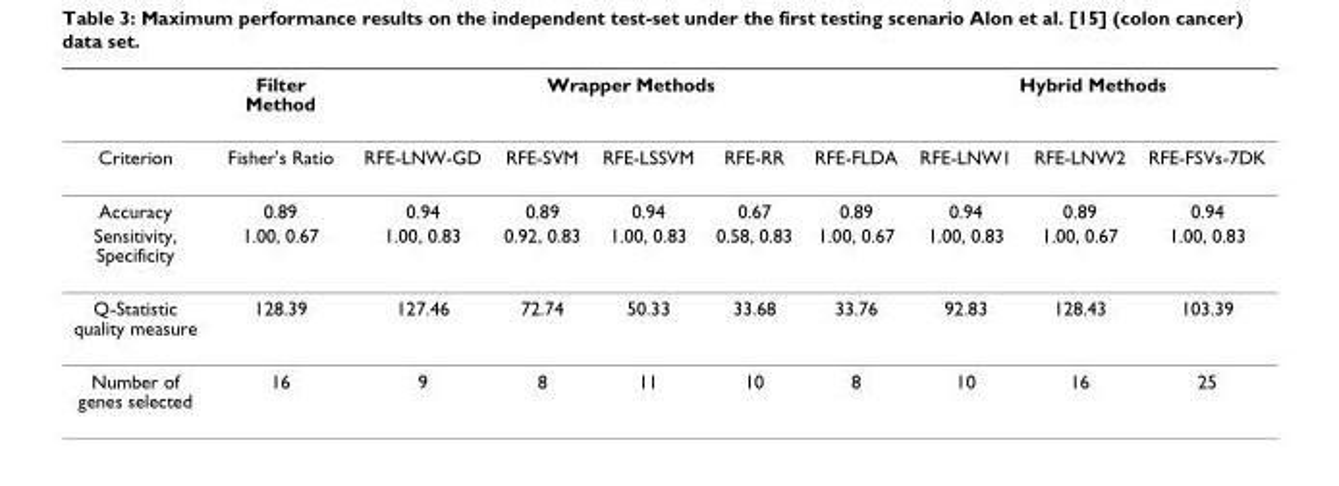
<table><thead><tr><td rowspan="2">Criterion</td><td rowspan="2">Filter Method Fisher&#x27;s Ratio</td><td colspan="5">Wrapper Methods</td><td colspan="3">Hybrid Methods</td></tr><tr><td>RFE-LNW-GD</td><td>RFE-SVM</td><td>RFE-LSSVM</td><td>RFE-RR</td><td>RFE-FLDA</td><td>RFE-LNW1</td><td>RFE-LNW2</td><td>RFE-FSVs-7DK</td></tr></thead><tbody><tr><td>Accuracy</td><td>0.89</td><td>0.94</td><td>0.89</td><td>0.94</td><td>0.67</td><td>0.89</td><td>0.94</td><td>0.89</td><td>0.94</td></tr><tr><td>Sensitivity, Specificity</td><td>1.00, 0.67</td><td>1.00, 0.83</td><td>0.92, 0.83</td><td>1.00, 0.83</td><td>0.58, 0.83</td><td>1.00, 0.67</td><td>1.00, 0.83</td><td>1.00, 0.67</td><td>1.00, 0.83</td></tr><tr><td>Q-Statistic quality measure</td><td>128.39</td><td>127.46</td><td>72.74</td><td>50.33</td><td>33.68</td><td>33.76</td><td>92.83</td><td>128.43</td><td>103.39</td></tr><tr><td>Number of genes selected</td><td>16</td><td>9</td><td>8</td><td>11</td><td>10</td><td>8</td><td>10</td><td>16</td><td>25</td></tr></tbody></table>